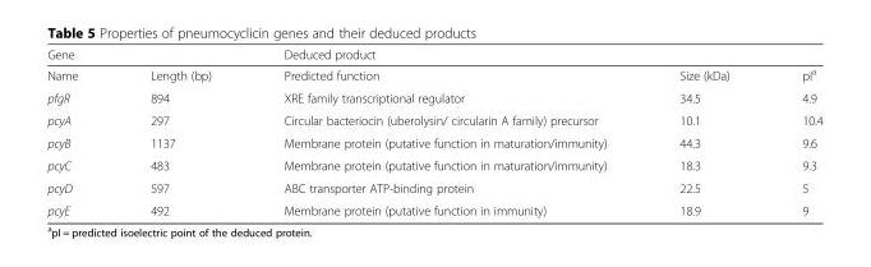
<table><thead><tr><td colspan="2">Gene</td><td colspan="3">Deduced product</td></tr><tr><td>Name</td><td>Length (bp)</td><td>Predicted function</td><td>Size (kDa)</td><td>pI<sup>a</sup></td></tr></thead><tbody><tr><td>pfgR</td><td>894</td><td>XRE family transcriptional regulator</td><td>34.5</td><td>4.9</td></tr><tr><td>pcyA</td><td>297</td><td>Circular bacteriocin (uberolysin/ circularin A family) precursor</td><td>10.1</td><td>10.4</td></tr><tr><td>pcyB</td><td>1137</td><td>Membrane protein (putative function in maturation/immunity)</td><td>44.3</td><td>9.6</td></tr><tr><td>pcyC</td><td>483</td><td>Membrane protein (putative function in maturation/immunity)</td><td>18.3</td><td>9.3</td></tr><tr><td>pcyD</td><td>597</td><td>ABC transporter ATP-binding protein</td><td>22.5</td><td>5</td></tr><tr><td>pcyE</td><td>492</td><td>Membrane protein (putative function in immunity)</td><td>18.9</td><td>9</td></tr></tbody></table>